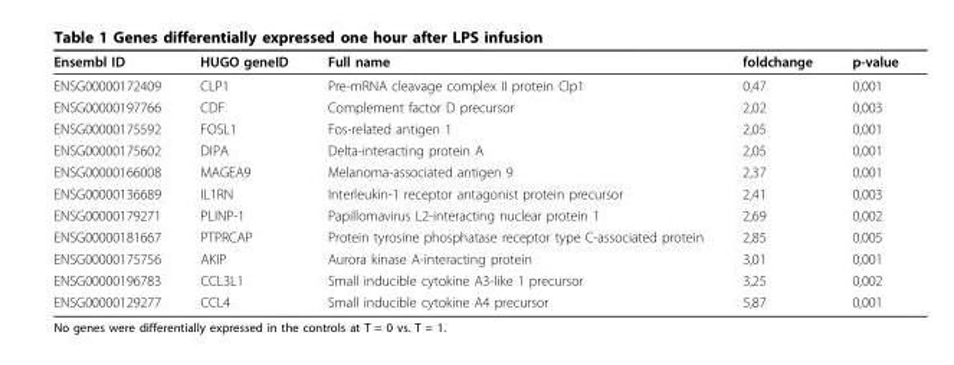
<table><thead><tr><td>Ensembl ID</td><td>HUGO geneID</td><td>Full name</td><td>foldchange</td><td>p-value</td></tr></thead><tbody><tr><td>ENSG00000172409</td><td>CLP1</td><td>Pre-mRNA cleavage complex II protein Clp1</td><td>0,47</td><td>0,001</td></tr><tr><td>ENSG00000197766</td><td>CDF</td><td>Complement factor D precursor</td><td>2,02</td><td>0,003</td></tr><tr><td>ENSG00000175592</td><td>FOSL1</td><td>Fos-related antigen 1</td><td>2,05</td><td>0,001</td></tr><tr><td>ENSG00000175602</td><td>DIPA</td><td>Delta-interacting protein A</td><td>2,05</td><td>0,001</td></tr><tr><td>ENSG00000166008</td><td>MAGEA9</td><td>Melanoma-associated antigen 9</td><td>2,37</td><td>0,001</td></tr><tr><td>ENSG00000136689</td><td>IL1RN</td><td>Interleukin-1 receptor antagonist protein precursor</td><td>2,41</td><td>0,003</td></tr><tr><td>ENSG00000179271</td><td>PLINP-1</td><td>Papillomavirus L2-interacting nuclear protein 1</td><td>2,69</td><td>0,002</td></tr><tr><td>ENSG00000181667</td><td>PTPRCAP</td><td>Protein tyrosine phosphatase receptor type C-associated protein</td><td>2,85</td><td>0,005</td></tr><tr><td>ENSG00000175756</td><td>AKIP</td><td>Aurora kinase A-interacting protein</td><td>3,01</td><td>0,001</td></tr><tr><td>ENSG00000196783</td><td>CCL3L1</td><td>Small inducible cytokine A3-like 1 precursor</td><td>3,25</td><td>0,002</td></tr><tr><td>ENSG00000129277</td><td>CCL4</td><td>Small inducible cytokine A4 precursor</td><td>5,87</td><td>0,001</td></tr></tbody></table>